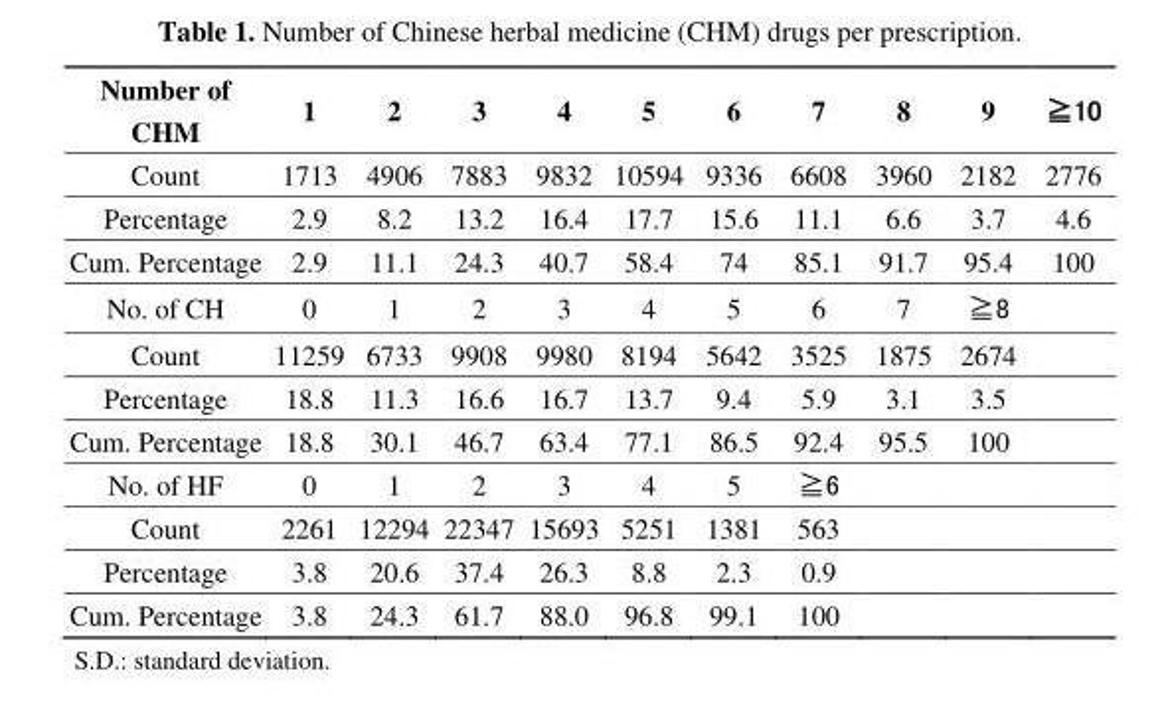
<table><thead><tr><td>Number of CHM</td><td>1</td><td>2</td><td>3</td><td>4</td><td>5</td><td>6</td><td>7</td><td>8</td><td>9</td><td>≧10</td></tr></thead><tbody><tr><td>Count</td><td>1713</td><td>4906</td><td>7883</td><td>9832</td><td>10594</td><td>9336</td><td>6608</td><td>3960</td><td>2182</td><td>2776</td></tr><tr><td>Percentage</td><td>2.9</td><td>8.2</td><td>13.2</td><td>16.4</td><td>17.7</td><td>15.6</td><td>11.1</td><td>6.6</td><td>3.7</td><td>4.6</td></tr><tr><td>Cum. Percentage</td><td>2.9</td><td>11.1</td><td>24.3</td><td>40.7</td><td>58.4</td><td>74</td><td>85.1</td><td>91.7</td><td>95.4</td><td>100</td></tr><tr><td>No. of CH</td><td>0</td><td>1</td><td>2</td><td>3</td><td>4</td><td>5</td><td>6</td><td>7</td><td>≧8</td><td></td></tr><tr><td>Count</td><td>11259</td><td>6733</td><td>9908</td><td>9980</td><td>8194</td><td>5642</td><td>3525</td><td>1875</td><td>2674</td><td></td></tr><tr><td>Percentage</td><td>18.8</td><td>11.3</td><td>16.6</td><td>16.7</td><td>13.7</td><td>9.4</td><td>5.9</td><td>3.1</td><td>3.5</td><td></td></tr><tr><td>Cum. Percentage</td><td>18.8</td><td>30.1</td><td>46.7</td><td>63.4</td><td>77.1</td><td>86.5</td><td>92.4</td><td>95.5</td><td>100</td><td></td></tr><tr><td>No. of HF</td><td>0</td><td>1</td><td>2</td><td>3</td><td>4</td><td>5</td><td>≧6</td><td></td><td></td><td></td></tr><tr><td>Count</td><td>2261</td><td>12294</td><td>22347</td><td>15693</td><td>5251</td><td>1381</td><td>563</td><td></td><td></td><td></td></tr><tr><td>Percentage</td><td>3.8</td><td>20.6</td><td>37.4</td><td>26.3</td><td>8.8</td><td>2.3</td><td>0.9</td><td></td><td></td><td></td></tr><tr><td>Cum. Percentage</td><td>3.8</td><td>24.3</td><td>61.7</td><td>88.0</td><td>96.8</td><td>99.1</td><td>100</td><td></td><td></td><td></td></tr></tbody></table>